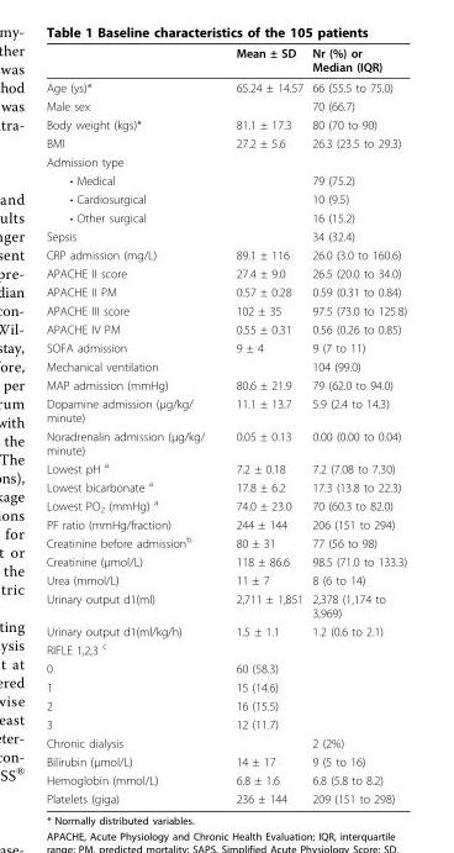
<table><thead><tr><td></td><td>Mean ± SD</td><td>Nr (%) or Median (IQR)</td></tr></thead><tbody><tr><td>Age (ys)*</td><td>65.24 ± 14.57</td><td>66 (55.5 to 75.0)</td></tr><tr><td>Male sex</td><td></td><td>70 (66.7)</td></tr><tr><td>Body weight (kgs)*</td><td>81.1 ± 17.3</td><td>80 (70 to 90)</td></tr><tr><td>BMI</td><td>27.2 ± 5.6</td><td>26.3 (23.5 to 29.3)</td></tr><tr><td colspan="3">Admission type</td></tr><tr><td>• Medical</td><td></td><td>79 (75.2)</td></tr><tr><td>• Cardiosurgical</td><td></td><td>10 (9.5)</td></tr><tr><td>• Other surgical</td><td></td><td>16 (15.2)</td></tr><tr><td>Sepsis</td><td></td><td>34 (32.4)</td></tr><tr><td>CRP admission (mg/L)</td><td>89.1 ± 116</td><td>26.0 (3.0 to 160.6)</td></tr><tr><td>APACHE II score</td><td>27.4 ± 9.0</td><td>26.5 (20.0 to 34.0)</td></tr><tr><td>APACHE II PM</td><td>0.57 ± 0.28</td><td>0.59 (0.31 to 0.84)</td></tr><tr><td>APACHE III score</td><td>102 ± 35</td><td>97.5 (73.0 to 125.8)</td></tr><tr><td>APACHE IV PM</td><td>0.55 ± 0.31</td><td>0.56 (0.26 to 0.85)</td></tr><tr><td>SOFA admission</td><td>9 ± 4</td><td>9 (7 to 11)</td></tr><tr><td>Mechanical ventilation</td><td></td><td>104 (99.0)</td></tr><tr><td>MAP admission (mmHg)</td><td>80.6 ± 21.9</td><td>79 (62.0 to 94.0)</td></tr><tr><td>Dopamine admission (μg/kg/ minute)</td><td>11.1 ± 13.7</td><td>5.9 (2.4 to 14.3)</td></tr><tr><td>Noradrenalin admission (μg/kg/ minute)</td><td>0.05 ± 0.13</td><td>0.00 (0.00 to 0.04)</td></tr><tr><td>Lowest pH <sup>a</sup></td><td>7.2 ± 0.18</td><td>7.2 (7.08 to 7.30)</td></tr><tr><td>Lowest bicarbonate <sup>a</sup></td><td>17.8 ± 6.2</td><td>17.3 (13.8 to 22.3)</td></tr><tr><td>Lowest PO<sub>2</sub> (mmHg) <sup>a</sup></td><td>74.0 ± 23.0</td><td>70 (60.3 to 82.0)</td></tr><tr><td>PF ratio (mmHg/fraction)</td><td>244 ± 144</td><td>206 (151 to 294)</td></tr><tr><td>Creatinine before admission<sup>b</sup></td><td>80 ± 31</td><td>77 (56 to 98)</td></tr><tr><td>Creatinine (μmol/L)</td><td>118 ± 86.6</td><td>98.5 (71.0 to 133.3)</td></tr><tr><td>Urea (mmol/L)</td><td>11 ± 7</td><td>8 (6 to 14)</td></tr><tr><td>Urinary output d1(ml)</td><td>2,711 ± 1,851</td><td>2,378 (1,174 to 3,969)</td></tr><tr><td>Urinary output d1(ml/kg/h)</td><td>1.5 ± 1.1</td><td>1.2 (0.6 to 2.1)</td></tr><tr><td colspan="3">RIFLE 1,2,3 <sup>c</sup></td></tr><tr><td>0</td><td>60 (58.3)</td><td></td></tr><tr><td>1</td><td>15 (14.6)</td><td></td></tr><tr><td>2</td><td>16 (15.5)</td><td></td></tr><tr><td>3</td><td>12 (11.7)</td><td></td></tr><tr><td>Chronic dialysis</td><td></td><td>2 (2%)</td></tr><tr><td>Bilirubin (μmol/L)</td><td>14 ± 17</td><td>9 (5 to 16)</td></tr><tr><td>Hemoglobin (mmol/L)</td><td>6.8 ± 1.6</td><td>6.8 (5.8 to 8.2)</td></tr><tr><td>Platelets (giga)</td><td>236 ± 144</td><td>209 (151 to 298)</td></tr></tbody></table>